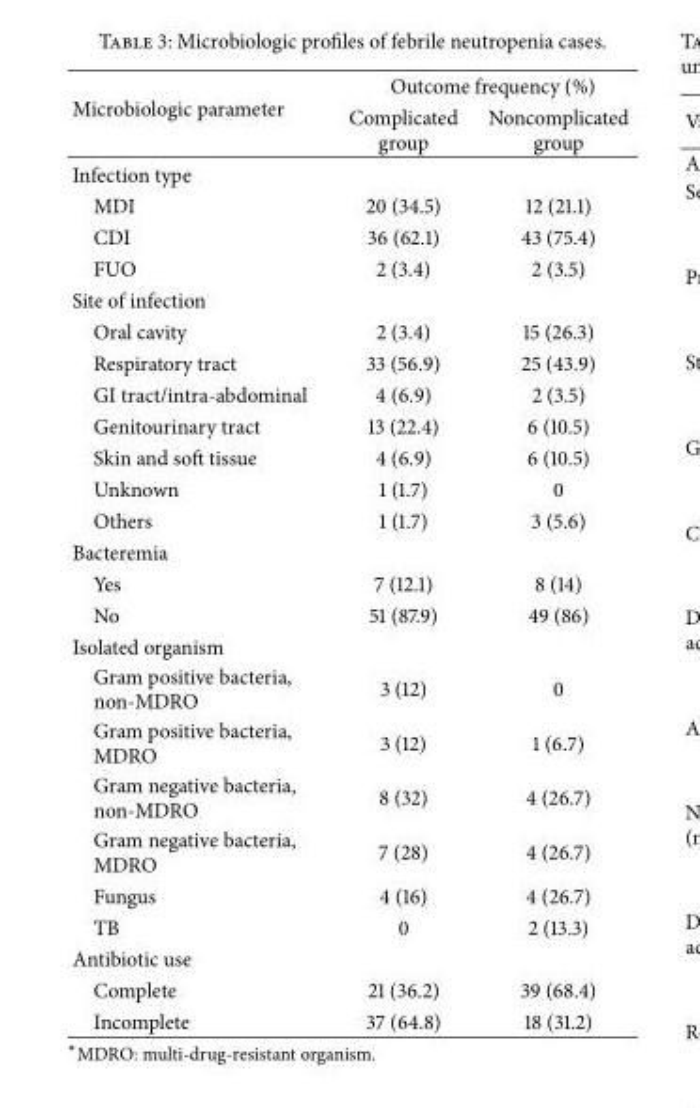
<table><thead><tr><td rowspan="2">Microbiologic parameter</td><td colspan="2">Outcome frequency (%)</td></tr><tr><td>Complicated group</td><td>Noncomplicated group</td></tr></thead><tbody><tr><td colspan="3">Infection type</td></tr><tr><td>MDI</td><td>20 (34.5)</td><td>12 (21.1)</td></tr><tr><td>CDI</td><td>36 (62.1)</td><td>43 (75.4)</td></tr><tr><td>FUO</td><td>2 (3.4)</td><td>2 (3.5)</td></tr><tr><td colspan="3">Site of infection</td></tr><tr><td>Oral cavity</td><td>2 (3.4)</td><td>15 (26.3)</td></tr><tr><td>Respiratory tract</td><td>33 (56.9)</td><td>25 (43.9)</td></tr><tr><td>GI tract/intra-abdominal</td><td>4 (6.9)</td><td>2 (3.5)</td></tr><tr><td>Genitourinary tract</td><td>13 (22.4)</td><td>6 (10.5)</td></tr><tr><td>Skin and soft tissue</td><td>4 (6.9)</td><td>6 (10.5)</td></tr><tr><td>Unknown</td><td>1 (1.7)</td><td>0</td></tr><tr><td>Others</td><td>1 (1.7)</td><td>3 (5.6)</td></tr><tr><td colspan="3">Bacteremia</td></tr><tr><td>Yes</td><td>7 (12.1)</td><td>8 (14)</td></tr><tr><td>No</td><td>51 (87.9)</td><td>49 (86)</td></tr><tr><td colspan="3">Isolated organism</td></tr><tr><td>Gram positive bacteria, non-MDRO</td><td>3 (12)</td><td>0</td></tr><tr><td>Gram positive bacteria, MDRO</td><td>3 (12)</td><td>1 (6.7)</td></tr><tr><td>Gram negative bacteria, non-MDRO</td><td>8 (32)</td><td>4 (26.7)</td></tr><tr><td>Gram negative bacteria, MDRO</td><td>7 (28)</td><td>4 (26.7)</td></tr><tr><td>Fungus</td><td>4 (16)</td><td>4 (26.7)</td></tr><tr><td>TB</td><td>0</td><td>2 (13.3)</td></tr><tr><td colspan="3">Antibiotic use</td></tr><tr><td>Complete</td><td>21 (36.2)</td><td>39 (68.4)</td></tr><tr><td>Incomplete</td><td>37 (64.8)</td><td>18 (31.2)</td></tr></tbody></table>